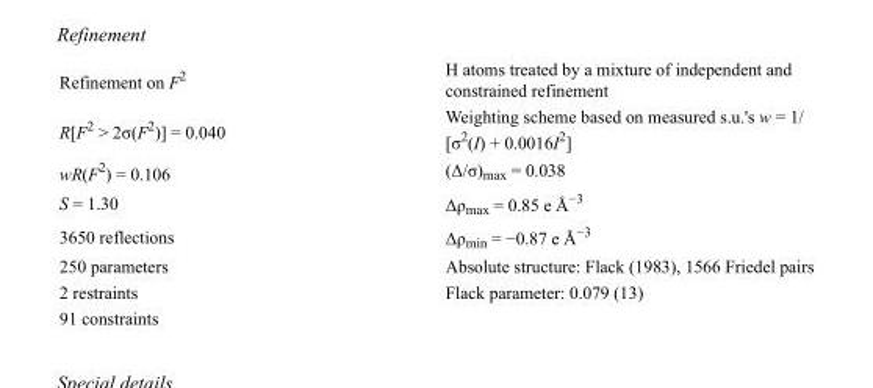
<table><tbody><tr><td>Refinement on F<sup>2</sup></td><td>H atoms treated by a mixture of independent and constrained refinement</td></tr><tr><td>R[F<sup>2</sup> &gt; 2σ(F<sup>2</sup>)] = 0.040</td><td>Weighting scheme based on measured s.u.&#x27;s w = 1/ [σ<sup>2</sup>(I) + 0.0016I<sup>2</sup>]</td></tr><tr><td>wR(F<sup>2</sup>) = 0.106</td><td>(Δ/σ)<sub>max</sub> = 0.038</td></tr><tr><td>S = 1.30</td><td>Δρ<sub>max</sub> = 0.85 e Å<sup>−3</sup></td></tr><tr><td>3650 reflections</td><td>Δρ<sub>min</sub> = −0.87 e Å<sup>−3</sup></td></tr><tr><td>250 parameters</td><td>Absolute structure: Flack (1983), 1566 Friedel pairs</td></tr><tr><td>2 restraints</td><td>Flack parameter: 0.079 (13)</td></tr><tr><td>91 constraints</td><td></td></tr></tbody></table>